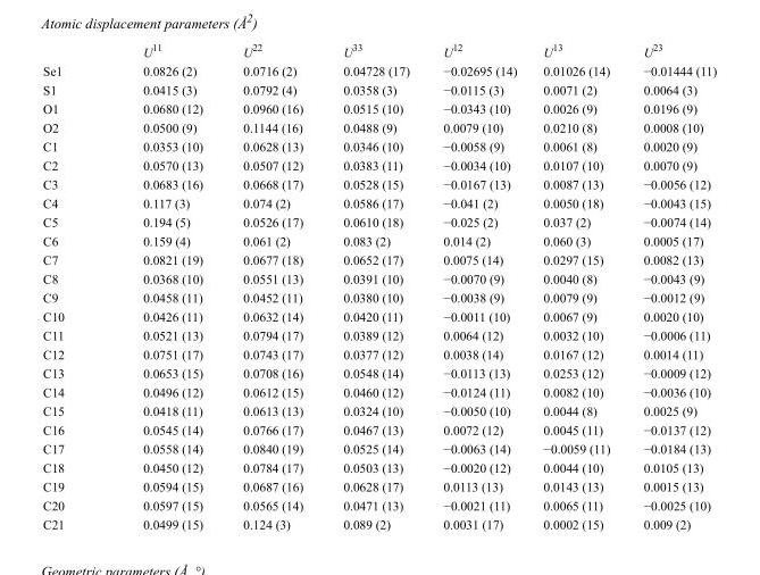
<table><thead><tr><td></td><td>U<sup>11</sup></td><td>U<sup>22</sup></td><td>U<sup>33</sup></td><td>U<sup>12</sup></td><td>U<sup>13</sup></td><td>U<sup>23</sup></td></tr></thead><tbody><tr><td>Se1</td><td>0.0826 (2)</td><td>0.0716 (2)</td><td>0.04728 (17)</td><td>−0.02695 (14)</td><td>0.01026 (14)</td><td>−0.01444 (11)</td></tr><tr><td>S1</td><td>0.0415 (3)</td><td>0.0792 (4)</td><td>0.0358 (3)</td><td>−0.0115 (3)</td><td>0.0071 (2)</td><td>0.0064 (3)</td></tr><tr><td>O1</td><td>0.0680 (12)</td><td>0.0960 (16)</td><td>0.0515 (10)</td><td>−0.0343 (10)</td><td>0.0026 (9)</td><td>0.0196 (9)</td></tr><tr><td>O2</td><td>0.0500 (9)</td><td>0.1144 (16)</td><td>0.0488 (9)</td><td>0.0079 (10)</td><td>0.0210 (8)</td><td>0.0008 (10)</td></tr><tr><td>C1</td><td>0.0353 (10)</td><td>0.0628 (13)</td><td>0.0346 (10)</td><td>−0.0058 (9)</td><td>0.0061 (8)</td><td>0.0020 (9)</td></tr><tr><td>C2</td><td>0.0570 (13)</td><td>0.0507 (12)</td><td>0.0383 (11)</td><td>−0.0034 (10)</td><td>0.0107 (10)</td><td>0.0070 (9)</td></tr><tr><td>C3</td><td>0.0683 (16)</td><td>0.0668 (17)</td><td>0.0528 (15)</td><td>−0.0167 (13)</td><td>0.0087 (13)</td><td>−0.0056 (12)</td></tr><tr><td>C4</td><td>0.117 (3)</td><td>0.074 (2)</td><td>0.0586 (17)</td><td>−0.041 (2)</td><td>0.0050 (18)</td><td>−0.0043 (15)</td></tr><tr><td>C5</td><td>0.194 (5)</td><td>0.0526 (17)</td><td>0.0610 (18)</td><td>−0.025 (2)</td><td>0.037 (2)</td><td>−0.0074 (14)</td></tr><tr><td>C6</td><td>0.159 (4)</td><td>0.061 (2)</td><td>0.083 (2)</td><td>0.014 (2)</td><td>0.060 (3)</td><td>0.0005 (17)</td></tr><tr><td>C7</td><td>0.0821 (19)</td><td>0.0677 (18)</td><td>0.0652 (17)</td><td>0.0075 (14)</td><td>0.0297 (15)</td><td>0.0082 (13)</td></tr><tr><td>C8</td><td>0.0368 (10)</td><td>0.0551 (13)</td><td>0.0391 (10)</td><td>−0.0070 (9)</td><td>0.0040 (8)</td><td>−0.0043 (9)</td></tr><tr><td>C9</td><td>0.0458 (11)</td><td>0.0452 (11)</td><td>0.0380 (10)</td><td>−0.0038 (9)</td><td>0.0079 (9)</td><td>−0.0012 (9)</td></tr><tr><td>C10</td><td>0.0426 (11)</td><td>0.0632 (14)</td><td>0.0420 (11)</td><td>−0.0011 (10)</td><td>0.0067 (9)</td><td>0.0020 (10)</td></tr><tr><td>C11</td><td>0.0521 (13)</td><td>0.0794 (17)</td><td>0.0389 (12)</td><td>0.0064 (12)</td><td>0.0032 (10)</td><td>−0.0006 (11)</td></tr><tr><td>C12</td><td>0.0751 (17)</td><td>0.0743 (17)</td><td>0.0377 (12)</td><td>0.0038 (14)</td><td>0.0167 (12)</td><td>0.0014 (11)</td></tr><tr><td>C13</td><td>0.0653 (15)</td><td>0.0708 (16)</td><td>0.0548 (14)</td><td>−0.0113 (13)</td><td>0.0253 (12)</td><td>−0.0009 (12)</td></tr><tr><td>C14</td><td>0.0496 (12)</td><td>0.0612 (15)</td><td>0.0460 (12)</td><td>−0.0124 (11)</td><td>0.0082 (10)</td><td>−0.0036 (10)</td></tr><tr><td>C15</td><td>0.0418 (11)</td><td>0.0613 (13)</td><td>0.0324 (10)</td><td>−0.0050 (10)</td><td>0.0044 (8)</td><td>0.0025 (9)</td></tr><tr><td>C16</td><td>0.0545 (14)</td><td>0.0766 (17)</td><td>0.0467 (13)</td><td>0.0072 (12)</td><td>0.0045 (11)</td><td>−0.0137 (12)</td></tr><tr><td>C17</td><td>0.0558 (14)</td><td>0.0840 (19)</td><td>0.0525 (14)</td><td>−0.0063 (14)</td><td>−0.0059 (11)</td><td>−0.0184 (13)</td></tr><tr><td>C18</td><td>0.0450 (12)</td><td>0.0784 (17)</td><td>0.0503 (13)</td><td>−0.0020 (12)</td><td>0.0044 (10)</td><td>0.0105 (13)</td></tr><tr><td>C19</td><td>0.0594 (15)</td><td>0.0687 (16)</td><td>0.0628 (17)</td><td>0.0113 (13)</td><td>0.0143 (13)</td><td>0.0015 (13)</td></tr><tr><td>C20</td><td>0.0597 (15)</td><td>0.0565 (14)</td><td>0.0471 (13)</td><td>−0.0021 (11)</td><td>0.0065 (11)</td><td>−0.0025 (10)</td></tr><tr><td>C21</td><td>0.0499 (15)</td><td>0.124 (3)</td><td>0.089 (2)</td><td>0.0031 (17)</td><td>0.0002 (15)</td><td>0.009 (2)</td></tr></tbody></table>